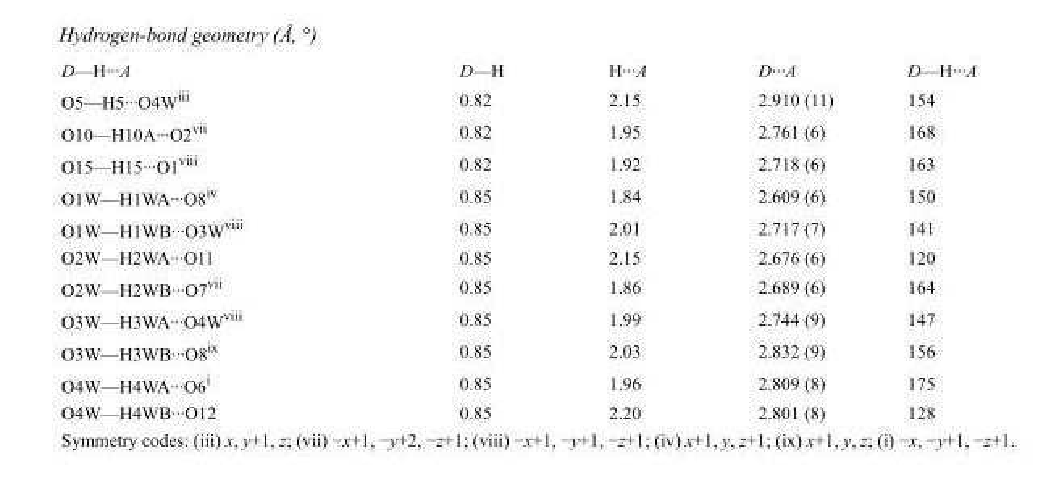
<table><tbody><tr><td>D—H···A</td><td>D—H</td><td>H···A</td><td>D···A</td><td>D—H···A</td></tr><tr><td>O5—H5···O4W<sup>iii</sup></td><td>0.82</td><td>2.15</td><td>2.910 (11)</td><td>154</td></tr><tr><td>O10—H10A···O2<sup>vii</sup></td><td>0.82</td><td>1.95</td><td>2.761 (6)</td><td>168</td></tr><tr><td>O15—H15···O1<sup>viii</sup></td><td>0.82</td><td>1.92</td><td>2.718 (6)</td><td>163</td></tr><tr><td>O1W—H1WA···O8<sup>iv</sup></td><td>0.85</td><td>1.84</td><td>2.609 (6)</td><td>150</td></tr><tr><td>O1W—H1WB···O3W<sup>viii</sup></td><td>0.85</td><td>2.01</td><td>2.717 (7)</td><td>141</td></tr><tr><td>O2W—H2WA···O11</td><td>0.85</td><td>2.15</td><td>2.676 (6)</td><td>120</td></tr><tr><td>O2W—H2WB···O7<sup>vii</sup></td><td>0.85</td><td>1.86</td><td>2.689 (6)</td><td>164</td></tr><tr><td>O3W—H3WA···O4W<sup>viii</sup></td><td>0.85</td><td>1.99</td><td>2.744 (9)</td><td>147</td></tr><tr><td>O3W—H3WB···O8<sup>ix</sup></td><td>0.85</td><td>2.03</td><td>2.832 (9)</td><td>156</td></tr><tr><td>O4W—H4WA···O6<sup>i</sup></td><td>0.85</td><td>1.96</td><td>2.809 (8)</td><td>175</td></tr><tr><td>O4W—H4WB···O12</td><td>0.85</td><td>2.20</td><td>2.801 (8)</td><td>128</td></tr></tbody></table>